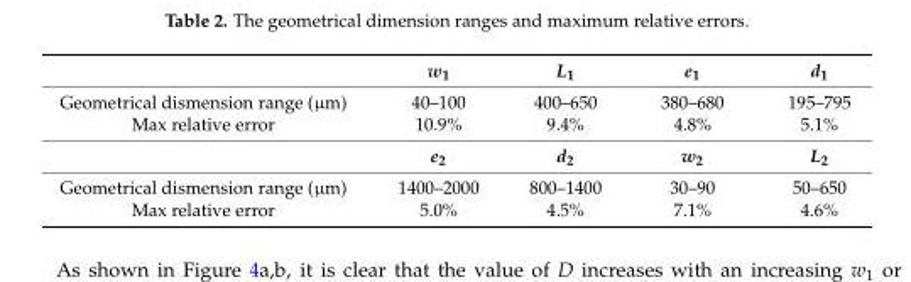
<table><thead><tr><td></td><td>w<sub>1</sub></td><td>L<sub>1</sub></td><td>e<sub>1</sub></td><td>d<sub>1</sub></td></tr></thead><tbody><tr><td>Geometrical dismension range (µm)</td><td>40–100</td><td>400–650</td><td>380–680</td><td>195–795</td></tr><tr><td rowspan="2">Max relative error</td><td>10.9%</td><td>9.4%</td><td>4.8%</td><td>5.1%</td></tr><tr><td>e<sub>2</sub></td><td>d<sub>2</sub></td><td>w<sub>2</sub></td><td>L<sub>2</sub></td></tr><tr><td>Geometrical dismension range (µm)</td><td>1400–2000</td><td>800–1400</td><td>30–90</td><td>50–650</td></tr><tr><td>Max relative error</td><td>5.0%</td><td>4.5%</td><td>7.1%</td><td>4.6%</td></tr></tbody></table>